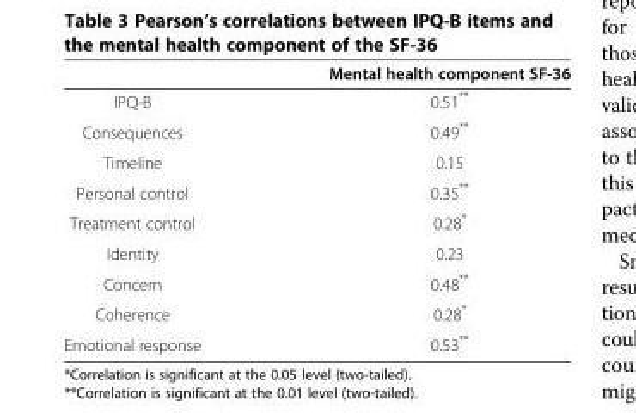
<table><thead><tr><td></td><td>Mental health component SF-36</td></tr></thead><tbody><tr><td>IPQ-B</td><td>0.51**</td></tr><tr><td>Consequences</td><td>0.49**</td></tr><tr><td>Timeline</td><td>0.15</td></tr><tr><td>Personal control</td><td>0.35**</td></tr><tr><td>Treatment control</td><td>0.28*</td></tr><tr><td>Identity</td><td>0.23</td></tr><tr><td>Concern</td><td>0.48**</td></tr><tr><td>Coherence</td><td>0.28*</td></tr><tr><td>Emotional response</td><td>0.53**</td></tr></tbody></table>